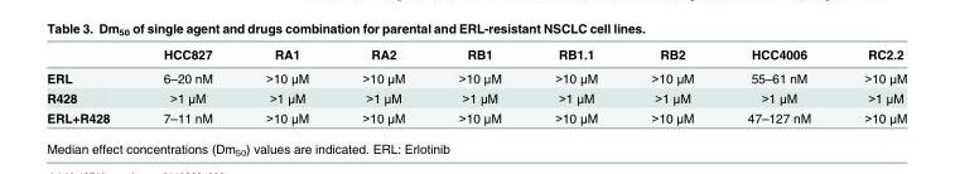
<table><thead><tr><td></td><td>HCC827</td><td>RA1</td><td>RA2</td><td>RB1</td><td>RB1.1</td><td>RB2</td><td>HCC4006</td><td>RC2.2</td></tr></thead><tbody><tr><td>ERL</td><td>6–20 nM</td><td>&gt;10 μM</td><td>&gt;10 μM</td><td>&gt;10 μM</td><td>&gt;10 μM</td><td>&gt;10 μM</td><td>55–61 nM</td><td>&gt;10 μM</td></tr><tr><td>R428</td><td>&gt;1 μM</td><td>&gt;1 μM</td><td>&gt;1 μM</td><td>&gt;1 μM</td><td>&gt;1 μM</td><td>&gt;1 μM</td><td>&gt;1 μM</td><td>&gt;1 μM</td></tr><tr><td>ERL+R428</td><td>7–11 nM</td><td>&gt;10 μM</td><td>&gt;10 μM</td><td>&gt;10 μM</td><td>&gt;10 μM</td><td>&gt;10 μM</td><td>47–127 nM</td><td>&gt;10 μM</td></tr></tbody></table>